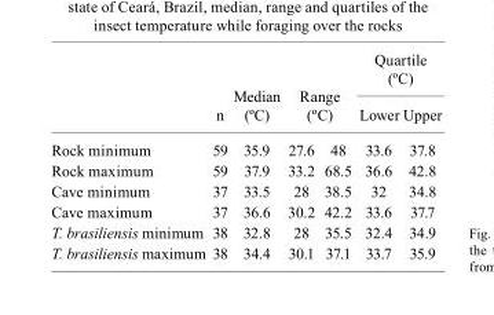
<table><thead><tr><td rowspan="3">Rock minimum</td><td rowspan="3">n 59</td><td rowspan="3">Median (ºC) 35.9</td><td rowspan="2" colspan="2">Range (ºC)</td><td rowspan="2" colspan="2">Quartile (ºC) Lower Upper</td></tr><tr></tr><tr><td>27.6</td><td>48</td><td>33.6</td><td>37.8</td></tr></thead><tbody><tr><td>Rock maximum</td><td>59</td><td>37.9</td><td>33.2</td><td>68.5</td><td>36.6</td><td>42.8</td></tr><tr><td>Cave minimum</td><td>37</td><td>33.5</td><td>28</td><td>38.5</td><td>32</td><td>34.8</td></tr><tr><td>Cave maximum</td><td>37</td><td>36.6</td><td>30.2</td><td>42.2</td><td>33.6</td><td>37.7</td></tr><tr><td>T. brasiliensis minimum</td><td>38</td><td>32.8</td><td>28</td><td>35.5</td><td>32.4</td><td>34.9</td></tr><tr><td>T. brasiliensis maximum</td><td>38</td><td>34.4</td><td>30.1</td><td>37.1</td><td>33.7</td><td>35.9</td></tr></tbody></table>